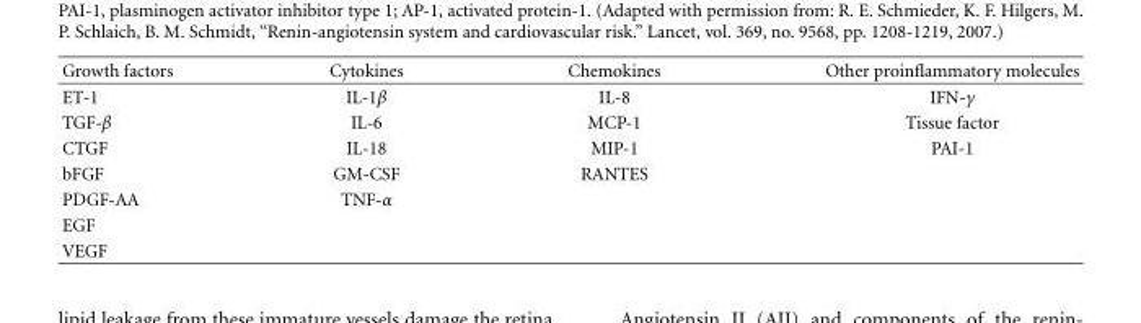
<table><thead><tr><td>Growth factors</td><td>Cytokines</td><td>Chemokines</td><td>Other proinflammatory molecules</td></tr></thead><tbody><tr><td>ET-1</td><td>IL-1β</td><td>IL-8</td><td>IFN-γ</td></tr><tr><td>TGF-β</td><td>IL-6</td><td>MCP-1</td><td>Tissue factor</td></tr><tr><td>CTGF</td><td>IL-18</td><td>MIP-1</td><td>PAI-1</td></tr><tr><td>bFGF</td><td>GM-CSF</td><td>RANTES</td><td></td></tr><tr><td>PDGF-AA</td><td>TNF-α</td><td></td><td></td></tr><tr><td colspan="4">EGF</td></tr><tr><td>VEGF</td><td></td><td></td><td></td></tr></tbody></table>